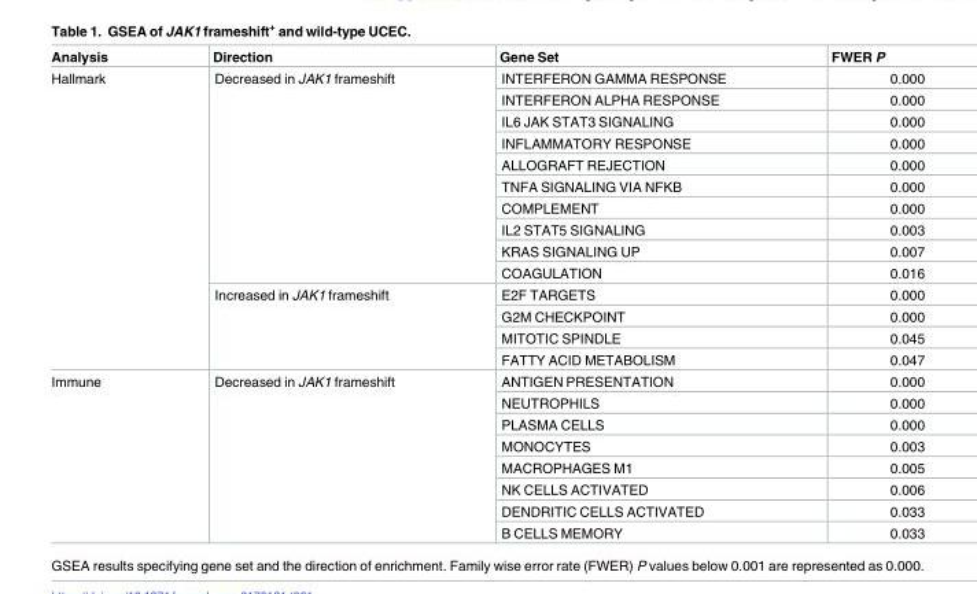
<table><thead><tr><td>Analysis</td><td>Direction</td><td>Gene Set</td><td>FWER P</td></tr></thead><tbody><tr><td rowspan="14">Hallmark</td><td rowspan="10">Decreased in JAK1 frameshift</td><td>INTERFERON GAMMA RESPONSE</td><td>0.000</td></tr><tr><td>INTERFERON ALPHA RESPONSE</td><td>0.000</td></tr><tr><td>IL6 JAK STAT3 SIGNALING</td><td>0.000</td></tr><tr><td>INFLAMMATORY RESPONSE</td><td>0.000</td></tr><tr><td>ALLOGRAFT REJECTION</td><td>0.000</td></tr><tr><td>TNFA SIGNALING VIA NFKB</td><td>0.000</td></tr><tr><td>COMPLEMENT</td><td>0.000</td></tr><tr><td>IL2 STAT5 SIGNALING</td><td>0.003</td></tr><tr><td>KRAS SIGNALING UP</td><td>0.007</td></tr><tr><td>COAGULATION</td><td>0.016</td></tr><tr><td rowspan="4">Increased in JAK1 frameshift</td><td>E2F TARGETS</td><td>0.000</td></tr><tr><td>G2M CHECKPOINT</td><td>0.000</td></tr><tr><td>MITOTIC SPINDLE</td><td>0.045</td></tr><tr><td>FATTY ACID METABOLISM</td><td>0.047</td></tr><tr><td rowspan="8">Immune</td><td rowspan="8">Decreased in JAK1 frameshift</td><td>ANTIGEN PRESENTATION</td><td>0.000</td></tr><tr><td>NEUTROPHILS</td><td>0.000</td></tr><tr><td>PLASMA CELLS</td><td>0.000</td></tr><tr><td>MONOCYTES</td><td>0.003</td></tr><tr><td>MACROPHAGES M1</td><td>0.005</td></tr><tr><td>NK CELLS ACTIVATED</td><td>0.006</td></tr><tr><td>DENDRITIC CELLS ACTIVATED</td><td>0.033</td></tr><tr><td>B CELLS MEMORY</td><td>0.033</td></tr></tbody></table>